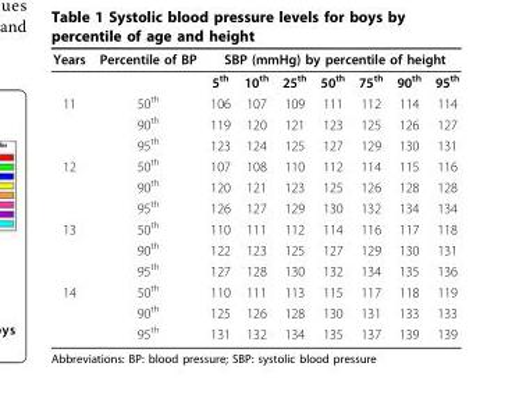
<table><thead><tr><td rowspan="2">Years</td><td rowspan="2">Percentile of BP</td><td colspan="7">SBP (mmHg) by percentile of height</td></tr><tr><td>5<sup>th</sup></td><td>10<sup>th</sup></td><td>25<sup>th</sup></td><td>50<sup>th</sup></td><td>75<sup>th</sup></td><td>90<sup>th</sup></td><td>95<sup>th</sup></td></tr></thead><tbody><tr><td rowspan="3">11</td><td>50<sup>th</sup></td><td>106</td><td>107</td><td>109</td><td>111</td><td>112</td><td>114</td><td>114</td></tr><tr><td>90<sup>th</sup></td><td>119</td><td>120</td><td>121</td><td>123</td><td>125</td><td>126</td><td>127</td></tr><tr><td>95<sup>th</sup></td><td>123</td><td>124</td><td>125</td><td>127</td><td>129</td><td>130</td><td>131</td></tr><tr><td rowspan="3">12</td><td>50<sup>th</sup></td><td>107</td><td>108</td><td>110</td><td>112</td><td>114</td><td>115</td><td>116</td></tr><tr><td>90<sup>th</sup></td><td>120</td><td>121</td><td>123</td><td>125</td><td>126</td><td>128</td><td>128</td></tr><tr><td>95<sup>th</sup></td><td>126</td><td>127</td><td>129</td><td>130</td><td>132</td><td>134</td><td>134</td></tr><tr><td rowspan="3">13</td><td>50<sup>th</sup></td><td>110</td><td>111</td><td>112</td><td>114</td><td>116</td><td>117</td><td>118</td></tr><tr><td>90<sup>th</sup></td><td>122</td><td>123</td><td>125</td><td>127</td><td>129</td><td>130</td><td>131</td></tr><tr><td>95<sup>th</sup></td><td>127</td><td>128</td><td>130</td><td>132</td><td>134</td><td>135</td><td>136</td></tr><tr><td rowspan="3">14</td><td>50<sup>th</sup></td><td>110</td><td>111</td><td>113</td><td>115</td><td>117</td><td>118</td><td>119</td></tr><tr><td>90<sup>th</sup></td><td>125</td><td>126</td><td>128</td><td>130</td><td>131</td><td>133</td><td>133</td></tr><tr><td>95<sup>th</sup></td><td>131</td><td>132</td><td>134</td><td>135</td><td>137</td><td>139</td><td>139</td></tr></tbody></table>